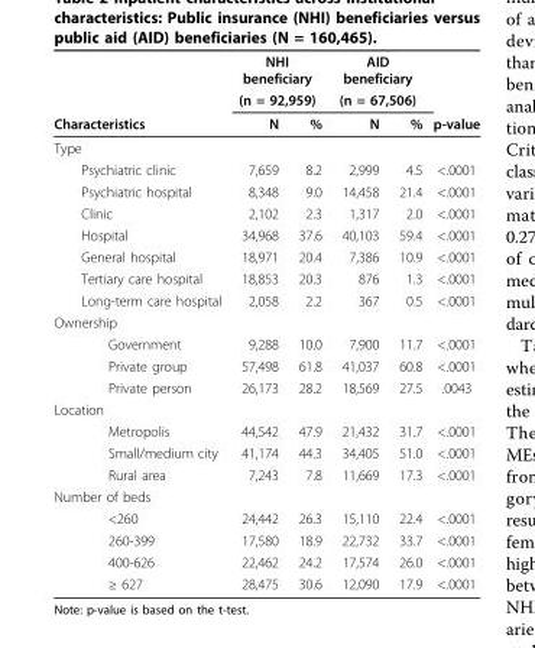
<table><thead><tr><td rowspan="3">Characteristics</td><td rowspan="2" colspan="2">NHI beneficiary (n = 92,959)</td><td rowspan="2" colspan="2">AID beneficiary (n = 67,506)</td><td rowspan="3">p-value</td></tr><tr></tr><tr><td>N</td><td>%</td><td>N</td><td>%</td></tr></thead><tbody><tr><td colspan="6">Type</td></tr><tr><td>Psychiatric clinic</td><td>7,659</td><td>8.2</td><td>2,999</td><td>4.5</td><td>&lt;.0001</td></tr><tr><td>Psychiatric hospital</td><td>8,348</td><td>9.0</td><td>14,458</td><td>21.4</td><td>&lt;.0001</td></tr><tr><td>Clinic</td><td>2,102</td><td>2.3</td><td>1,317</td><td>2.0</td><td>&lt;.0001</td></tr><tr><td>Hospital</td><td>34,968</td><td>37.6</td><td>40,103</td><td>59.4</td><td>&lt;.0001</td></tr><tr><td>General hospital</td><td>18,971</td><td>20.4</td><td>7,386</td><td>10.9</td><td>&lt;.0001</td></tr><tr><td>Tertiary care hospital</td><td>18,853</td><td>20.3</td><td>876</td><td>1.3</td><td>&lt;.0001</td></tr><tr><td>Long-term care hospital</td><td>2,058</td><td>2.2</td><td>367</td><td>0.5</td><td>&lt;.0001</td></tr><tr><td colspan="6">Ownership</td></tr><tr><td>Government</td><td>9,288</td><td>10.0</td><td>7,900</td><td>11.7</td><td>&lt;.0001</td></tr><tr><td>Private group</td><td>57,498</td><td>61.8</td><td>41,037</td><td>60.8</td><td>&lt;.0001</td></tr><tr><td>Private person</td><td>26,173</td><td>28.2</td><td>18,569</td><td>27.5</td><td>.0043</td></tr><tr><td colspan="6">Location</td></tr><tr><td>Metropolis</td><td>44,542</td><td>47.9</td><td>21,432</td><td>31.7</td><td>&lt;.0001</td></tr><tr><td>Small/medium city</td><td>41,174</td><td>44.3</td><td>34,405</td><td>51.0</td><td>&lt;.0001</td></tr><tr><td>Rural area</td><td>7,243</td><td>7.8</td><td>11,669</td><td>17.3</td><td>&lt;.0001</td></tr><tr><td colspan="6">Number of beds</td></tr><tr><td>&lt;260</td><td>24,442</td><td>26.3</td><td>15,110</td><td>22.4</td><td>&lt;.0001</td></tr><tr><td>260-399</td><td>17,580</td><td>18.9</td><td>22,732</td><td>33.7</td><td>&lt;.0001</td></tr><tr><td>400-626</td><td>22,462</td><td>24.2</td><td>17,574</td><td>26.0</td><td>&lt;.0001</td></tr><tr><td>≥ 627</td><td>28,475</td><td>30.6</td><td>12,090</td><td>17.9</td><td>&lt;.0001</td></tr></tbody></table>